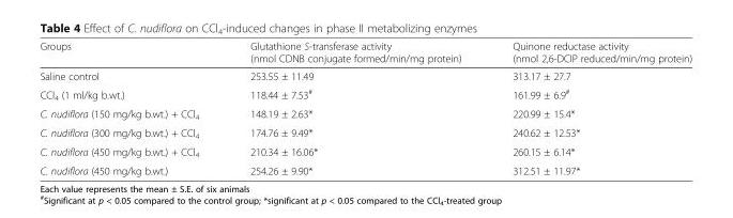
<table><thead><tr><td>Groups</td><td>Glutathione S-transferase activity (nmol CDNB conjugate formed/min/mg protein)</td><td>Quinone reductase activity (nmol 2,6-DCIP reduced/min/mg protein)</td></tr></thead><tbody><tr><td>Saline control</td><td>253.55 ± 11.49</td><td>313.17 ± 27.7</td></tr><tr><td>CCl<sub>4</sub> (1 ml/kg b.wt.)</td><td>118.44 ± 7.53<sup>#</sup></td><td>161.99 ± 6.9<sup>#</sup></td></tr><tr><td>C. nudiflora (150 mg/kg b.wt.) + CCl<sub>4</sub></td><td>148.19 ± 2.63*</td><td>220.99 ± 15.4*</td></tr><tr><td>C. nudiflora (300 mg/kg b.wt.) + CCl<sub>4</sub></td><td>174.76 ± 9.49*</td><td>240.62 ± 12.53*</td></tr><tr><td>C. nudiflora (450 mg/kg b.wt.) + CCl<sub>4</sub></td><td>210.34 ± 16.06*</td><td>260.15 ± 6.14*</td></tr><tr><td>C. nudiflora (450 mg/kg b.wt.)</td><td>254.26 ± 9.90*</td><td>312.51 ± 11.97*</td></tr></tbody></table>